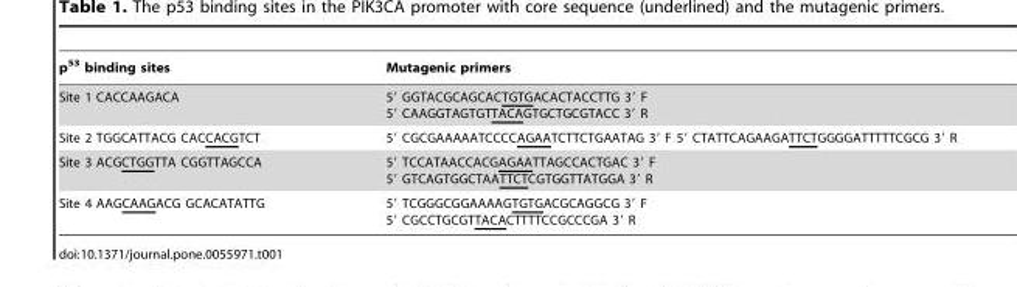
<table><thead><tr><td>p<sup>53</sup> binding sites</td><td>Mutagenic primers</td></tr></thead><tbody><tr><td>Site 1 CACCAAGACA</td><td>5′ GGTACGCAGCACTGTGACACTACCTTG 3′ F 5′ CAAGGTAGTGTTACAGTGCTGCGTACC 3′ R</td></tr><tr><td>Site 2 TGGCATTACG CACCACGTCT</td><td>5′ CGCGAAAAATCCCCAGAATCTTCTGAATAG 3′ F 5′ CTATTCAGAAGATTCTGGGGATTTTTCGCG 3′ R</td></tr><tr><td>Site 3 ACGCTGGTTA CGGTTAGCCA</td><td>5′ TCCATAACCACGAGAATTAGCCACTGAC 3′ F 5′ GTCAGTGGCTAATTCTCGTGGTTATGGA 3′ R</td></tr><tr><td>Site 4 AAGCAAGACG GCACATATTG</td><td>5′ TCGGGCGGAAAAGTGTGACGCAGGCG 3′ F 5′ CGCCTGCGTTACACTTTTCCGCCCGA 3′ R</td></tr></tbody></table>